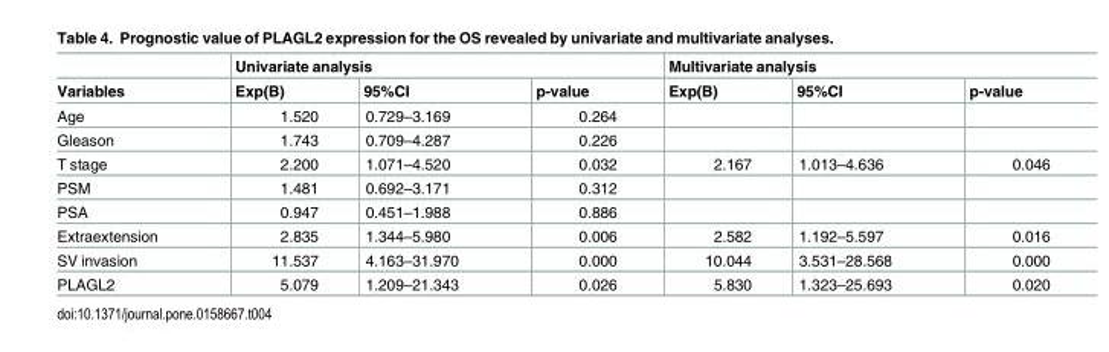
<table><thead><tr><td rowspan="2">Variables</td><td colspan="3">Univariate analysis</td><td colspan="3">Multivariate analysis</td></tr><tr><td>Exp(B)</td><td>95%CI</td><td>p-value</td><td>Exp(B)</td><td>95%CI</td><td>p-value</td></tr></thead><tbody><tr><td>Age</td><td>1.520</td><td>0.729–3.169</td><td>0.264</td><td></td><td></td><td></td></tr><tr><td>Gleason</td><td>1.743</td><td>0.709–4.287</td><td>0.226</td><td></td><td></td><td></td></tr><tr><td>T stage</td><td>2.200</td><td>1.071–4.520</td><td>0.032</td><td>2.167</td><td>1.013–4.636</td><td>0.046</td></tr><tr><td>PSM</td><td>1.481</td><td>0.692–3.171</td><td>0.312</td><td></td><td></td><td></td></tr><tr><td>PSA</td><td>0.947</td><td>0.451–1.988</td><td>0.886</td><td></td><td></td><td></td></tr><tr><td>Extraextension</td><td>2.835</td><td>1.344–5.980</td><td>0.006</td><td>2.582</td><td>1.192–5.597</td><td>0.016</td></tr><tr><td>SV invasion</td><td>11.537</td><td>4.163–31.970</td><td>0.000</td><td>10.044</td><td>3.531–28.568</td><td>0.000</td></tr><tr><td>PLAGL2</td><td>5.079</td><td>1.209–21.343</td><td>0.026</td><td>5.830</td><td>1.323–25.693</td><td>0.020</td></tr></tbody></table>